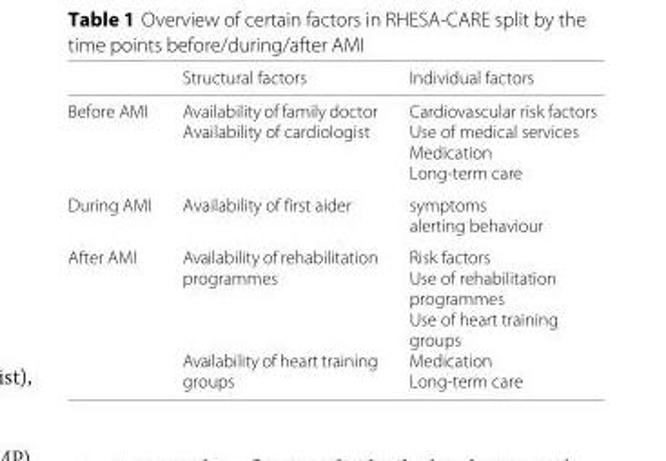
<table><thead><tr><td></td><td>Structural factors</td><td>Individual factors</td></tr></thead><tbody><tr><td rowspan="4">Before AMI</td><td>Availability of family doctor</td><td>Cardiovascular risk factors</td></tr><tr><td>Availability of cardiologist</td><td>Use of medical services</td></tr><tr><td></td><td>Medication</td></tr><tr><td></td><td>Long-term care</td></tr><tr><td rowspan="2">During AMI</td><td>Availability of first aider</td><td>symptoms</td></tr><tr><td></td><td>alerting behaviour</td></tr><tr><td rowspan="5">After AMI</td><td>Availability of rehabilitation</td><td>Risk factors</td></tr><tr><td>programmes</td><td>Use of rehabilitation programmes</td></tr><tr><td></td><td>Use of heart training groups</td></tr><tr><td>Availability of heart training</td><td>Medication</td></tr><tr><td>groups</td><td>Long-term care</td></tr></tbody></table>